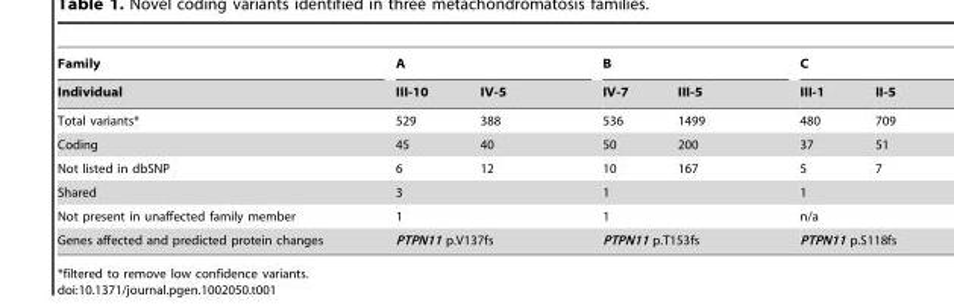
<table><thead><tr><td rowspan="2">Family Individual</td><td colspan="2">A</td><td colspan="2">B</td><td colspan="2">C</td></tr><tr><td>III-10</td><td>IV-5</td><td>IV-7</td><td>III-5</td><td>III-1</td><td>II-5</td></tr></thead><tbody><tr><td>Total variants*</td><td>529</td><td>388</td><td>536</td><td>1499</td><td>480</td><td>709</td></tr><tr><td>Coding</td><td>45</td><td>40</td><td>50</td><td>200</td><td>37</td><td>51</td></tr><tr><td>Not listed in dbSNP</td><td>6</td><td>12</td><td>10</td><td>167</td><td>5</td><td>7</td></tr><tr><td>Shared</td><td colspan="2">3</td><td colspan="2">1</td><td colspan="2">1</td></tr><tr><td>Not present in unaffected family member</td><td colspan="2">1</td><td colspan="2">1</td><td colspan="2">n/a</td></tr><tr><td>Genes affected and predicted protein changes</td><td colspan="2">PTPN11 p.V137fs</td><td colspan="2">PTPN11 p.T153fs</td><td colspan="2">PTPN11 p.S118fs</td></tr></tbody></table>